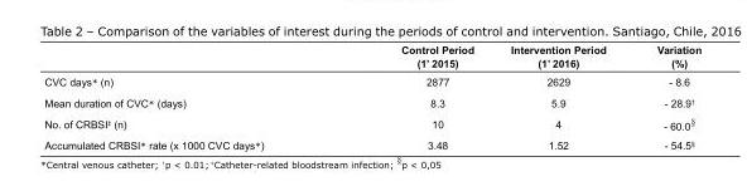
<table><thead><tr><td></td><td>Control Period (1’ 2015)</td><td>Intervention Period (1’ 2016)</td><td>Variation (%)</td></tr></thead><tbody><tr><td>CVC days* (n)</td><td>2877</td><td>2629</td><td>- 8.6</td></tr><tr><td>Mean duration of CVC* (days)</td><td>8.3</td><td>5.9</td><td>- 28.9<sup>†</sup></td></tr><tr><td>No. of CRBSI<sup>‡</sup> (n)</td><td>10</td><td>4</td><td>- 60.0<sup>§</sup></td></tr><tr><td>Accumulated CRBSI* rate (x 1000 CVC days*)</td><td>3.48</td><td>1.52</td><td>- 54.5<sup>§</sup></td></tr></tbody></table>